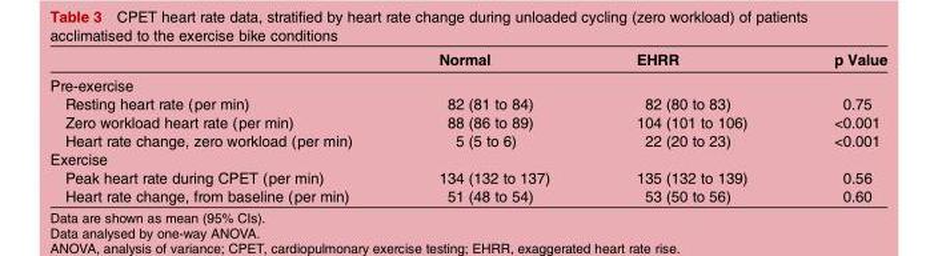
<table><thead><tr><td></td><td>Normal</td><td>EHRR</td><td>p Value</td></tr></thead><tbody><tr><td colspan="4">Pre-exercise</td></tr><tr><td>Resting heart rate (per min)</td><td>82 (81 to 84)</td><td>82 (80 to 83)</td><td>0.75</td></tr><tr><td>Zero workload heart rate (per min)</td><td>88 (86 to 89)</td><td>104 (101 to 106)</td><td>&lt;0.001</td></tr><tr><td>Heart rate change, zero workload (per min)</td><td>5 (5 to 6)</td><td>22 (20 to 23)</td><td>&lt;0.001</td></tr><tr><td colspan="4">Exercise</td></tr><tr><td>Peak heart rate during CPET (per min)</td><td>134 (132 to 137)</td><td>135 (132 to 139)</td><td>0.56</td></tr><tr><td>Heart rate change, from baseline (per min)</td><td>51 (48 to 54)</td><td>53 (50 to 56)</td><td>0.60</td></tr></tbody></table>